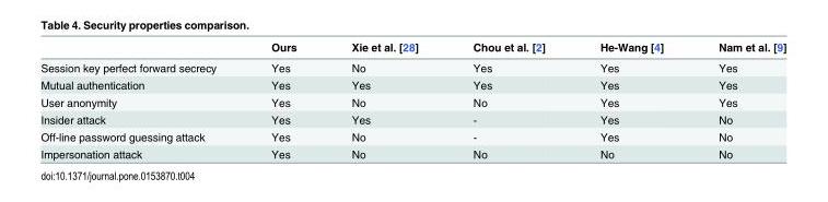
<table><thead><tr><td></td><td>Ours</td><td>Xie et al. [28]</td><td>Chou et al. [2]</td><td>He-Wang [4]</td><td>Nam et al. [9]</td></tr></thead><tbody><tr><td>Session key perfect forward secrecy</td><td>Yes</td><td>No</td><td>Yes</td><td>Yes</td><td>Yes</td></tr><tr><td>Mutual authentication</td><td>Yes</td><td>Yes</td><td>Yes</td><td>Yes</td><td>Yes</td></tr><tr><td>User anonymity</td><td>Yes</td><td>No</td><td>No</td><td>Yes</td><td>Yes</td></tr><tr><td>Insider attack</td><td>Yes</td><td>Yes</td><td>-</td><td>Yes</td><td>No</td></tr><tr><td>Off-line password guessing attack</td><td>Yes</td><td>No</td><td>-</td><td>Yes</td><td>No</td></tr><tr><td>Impersonation attack</td><td>Yes</td><td>No</td><td>No</td><td>No</td><td>No</td></tr></tbody></table>